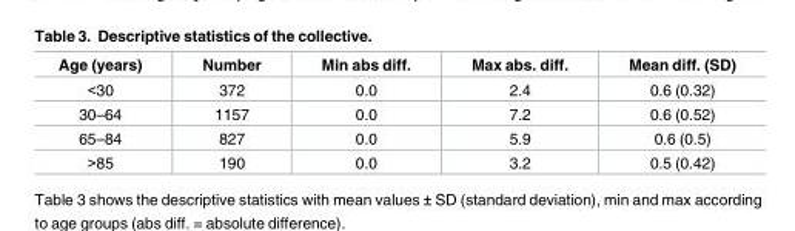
<table><thead><tr><td>Age (years)</td><td>Number</td><td>Min abs diff.</td><td>Max abs. diff.</td><td>Mean diff. (SD)</td></tr></thead><tbody><tr><td>&lt;30</td><td>372</td><td>0.0</td><td>2.4</td><td>0.6 (0.32)</td></tr><tr><td>30–64</td><td>1157</td><td>0.0</td><td>7.2</td><td>0.6 (0.52)</td></tr><tr><td>65–84</td><td>827</td><td>0.0</td><td>5.9</td><td>0.6 (0.5)</td></tr><tr><td>&gt;85</td><td>190</td><td>0.0</td><td>3.2</td><td>0.5 (0.42)</td></tr></tbody></table>